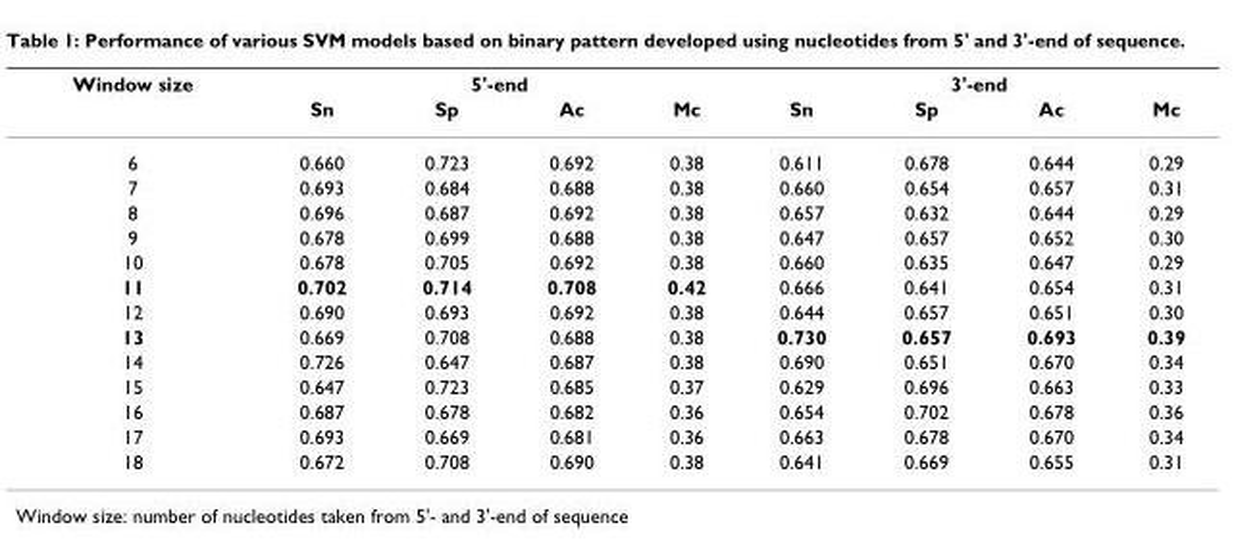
<table><thead><tr><td rowspan="2">Window size</td><td colspan="4">5&#x27;-end</td><td colspan="4">3&#x27;-end</td></tr><tr><td>Sn</td><td>Sp</td><td>Ac</td><td>Mc</td><td>Sn</td><td>Sp</td><td>Ac</td><td>Mc</td></tr></thead><tbody><tr><td>6</td><td>0.660</td><td>0.723</td><td>0.692</td><td>0.38</td><td>0.611</td><td>0.678</td><td>0.644</td><td>0.29</td></tr><tr><td>7</td><td>0.693</td><td>0.684</td><td>0.688</td><td>0.38</td><td>0.660</td><td>0.654</td><td>0.657</td><td>0.31</td></tr><tr><td>8</td><td>0.696</td><td>0.687</td><td>0.692</td><td>0.38</td><td>0.657</td><td>0.632</td><td>0.644</td><td>0.29</td></tr><tr><td>9</td><td>0.678</td><td>0.699</td><td>0.688</td><td>0.38</td><td>0.647</td><td>0.657</td><td>0.652</td><td>0.30</td></tr><tr><td>10</td><td>0.678</td><td>0.705</td><td>0.692</td><td>0.38</td><td>0.660</td><td>0.635</td><td>0.647</td><td>0.29</td></tr><tr><td>11</td><td>0.702</td><td>0.714</td><td>0.708</td><td>0.42</td><td>0.666</td><td>0.641</td><td>0.654</td><td>0.31</td></tr><tr><td>12</td><td>0.690</td><td>0.693</td><td>0.692</td><td>0.38</td><td>0.644</td><td>0.657</td><td>0.651</td><td>0.30</td></tr><tr><td>13</td><td>0.669</td><td>0.708</td><td>0.688</td><td>0.38</td><td>0.730</td><td>0.657</td><td>0.693</td><td>0.39</td></tr><tr><td>14</td><td>0.726</td><td>0.647</td><td>0.687</td><td>0.38</td><td>0.690</td><td>0.651</td><td>0.670</td><td>0.34</td></tr><tr><td>15</td><td>0.647</td><td>0.723</td><td>0.685</td><td>0.37</td><td>0.629</td><td>0.696</td><td>0.663</td><td>0.33</td></tr><tr><td>16</td><td>0.687</td><td>0.678</td><td>0.682</td><td>0.36</td><td>0.654</td><td>0.702</td><td>0.678</td><td>0.36</td></tr><tr><td>17</td><td>0.693</td><td>0.669</td><td>0.681</td><td>0.36</td><td>0.663</td><td>0.678</td><td>0.670</td><td>0.34</td></tr><tr><td>18</td><td>0.672</td><td>0.708</td><td>0.690</td><td>0.38</td><td>0.641</td><td>0.669</td><td>0.655</td><td>0.31</td></tr></tbody></table>